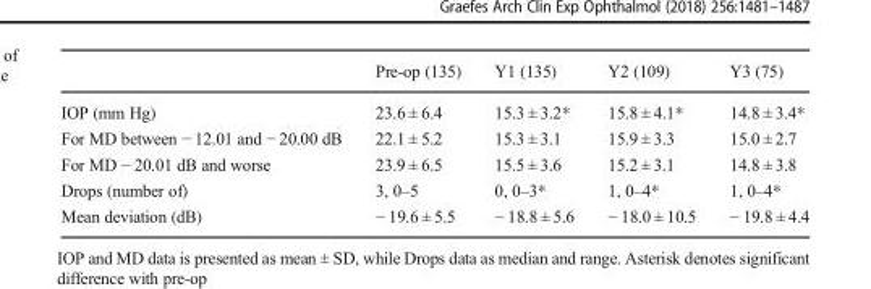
<table><thead><tr><td></td><td>Pre-op (135)</td><td>Y1 (135)</td><td>Y2 (109)</td><td>Y3 (75)</td></tr></thead><tbody><tr><td>IOP (mm Hg)</td><td>23.6 ± 6.4</td><td>15.3 ± 3.2*</td><td>15.8 ± 4.1*</td><td>14.8 ± 3.4*</td></tr><tr><td>For MD between − 12.01 and − 20.00 dB</td><td>22.1 ± 5.2</td><td>15.3 ± 3.1</td><td>15.9 ± 3.3</td><td>15.0 ± 2.7</td></tr><tr><td>For MD − 20.01 dB and worse</td><td>23.9 ± 6.5</td><td>15.5 ± 3.6</td><td>15.2 ± 3.1</td><td>14.8 ± 3.8</td></tr><tr><td>Drops (number of)</td><td>3, 0–5</td><td>0, 0–3*</td><td>1, 0–4*</td><td>1, 0–4*</td></tr><tr><td>Mean deviation (dB)</td><td>− 19.6 ± 5.5</td><td>− 18.8 ± 5.6</td><td>− 18.0 ± 10.5</td><td>− 19.8 ± 4.4</td></tr></tbody></table>